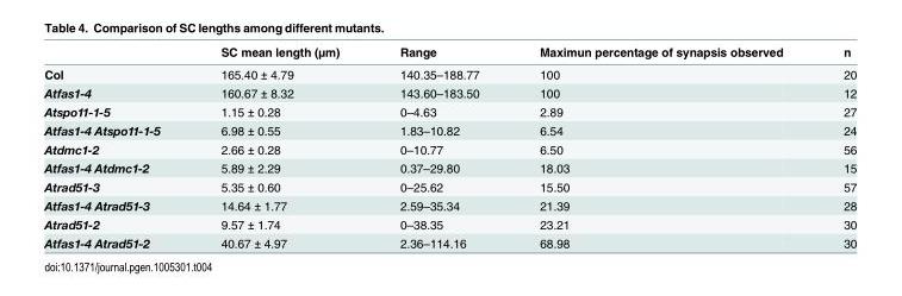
<table><thead><tr><td></td><td>SC mean length (µm)</td><td>Range</td><td>Maximun percentage of synapsis observed</td><td>n</td></tr></thead><tbody><tr><td>Col</td><td>165.40 ± 4.79</td><td>140.35–188.77</td><td>100</td><td>20</td></tr><tr><td>Atfas1-4</td><td>160.67 ± 8.32</td><td>143.60–183.50</td><td>100</td><td>12</td></tr><tr><td>Atspo11-1-5</td><td>1.15 ± 0.28</td><td>0–4.63</td><td>2.89</td><td>27</td></tr><tr><td>Atfas1-4 Atspo11-1-5</td><td>6.98 ± 0.55</td><td>1.83–10.82</td><td>6.54</td><td>24</td></tr><tr><td>Atdmc1-2</td><td>2.66 ± 0.28</td><td>0–10.77</td><td>6.50</td><td>56</td></tr><tr><td>Atfas1-4 Atdmc1-2</td><td>5.89 ± 2.29</td><td>0.37–29.80</td><td>18.03</td><td>15</td></tr><tr><td>Atrad51-3</td><td>5.35 ± 0.60</td><td>0–25.62</td><td>15.50</td><td>57</td></tr><tr><td>Atfas1-4 Atrad51-3</td><td>14.64 ± 1.77</td><td>2.59–35.34</td><td>21.39</td><td>28</td></tr><tr><td>Atrad51-2</td><td>9.57 ± 1.74</td><td>0–38.35</td><td>23.21</td><td>30</td></tr><tr><td>Atfas1-4 Atrad51-2</td><td>40.67 ± 4.97</td><td>2.36–114.16</td><td>68.98</td><td>30</td></tr></tbody></table>